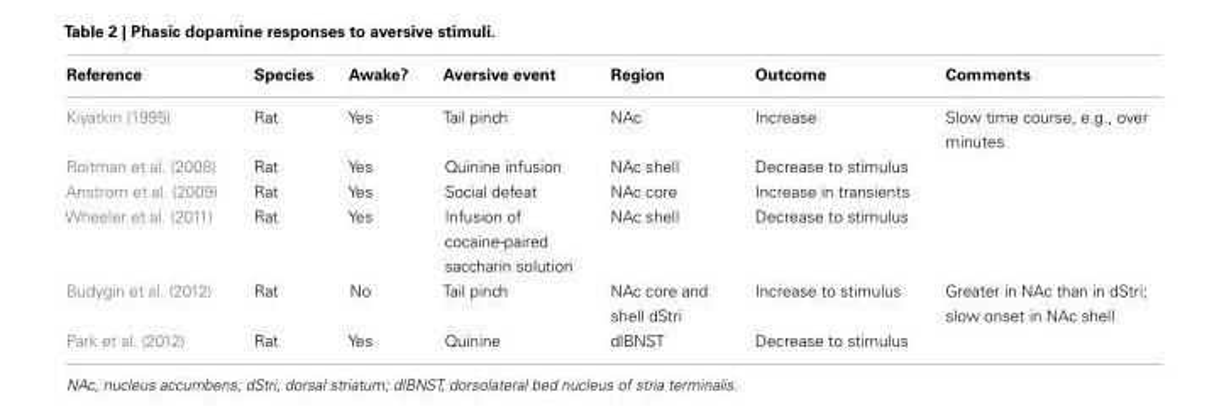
<table><thead><tr><td>Reference</td><td>Species</td><td>Awake?</td><td>Aversive event</td><td>Region</td><td>Outcome</td><td>Comments</td></tr></thead><tbody><tr><td>Kiyatkin (1995)</td><td>Rat</td><td>Yes</td><td>Tail pinch</td><td>NAc</td><td>Increase</td><td>Slow time course, e.g., over minutes</td></tr><tr><td>Roitman et al. (2008)</td><td>Rat</td><td>Yes</td><td>Quinine infusion</td><td>NAc shell</td><td>Decrease to stimulus</td><td></td></tr><tr><td>Anstrom et al. (2009)</td><td>Rat</td><td>Yes</td><td>Social defeat</td><td>NAc core</td><td>Increase in transients</td><td></td></tr><tr><td>Wheeler et al. (2011)</td><td>Rat</td><td>Yes</td><td>Infusion of cocaine-paired saccharin solution</td><td>NAc shell</td><td>Decrease to stimulus</td><td></td></tr><tr><td>Budygin et al. (2012)</td><td>Rat</td><td>No</td><td>Tail pinch</td><td>NAc core and shell dStri</td><td>Increase to stimulus</td><td>Greater in NAc than in dStri; slow onset in NAc shell</td></tr><tr><td>Park et al. (2012)</td><td>Rat</td><td>Yes</td><td>Quinine</td><td>dlBNST</td><td>Decrease to stimulus</td><td></td></tr></tbody></table>